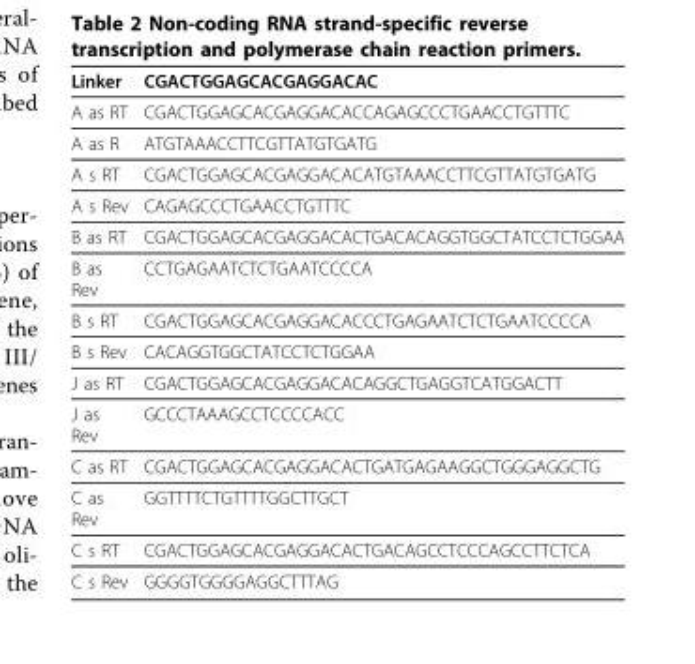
<table><thead><tr><td>Linker</td><td>CGACTGGAGCACGAGGACAC</td></tr></thead><tbody><tr><td>A as RT</td><td>CGACTGGAGCACGAGGACACCAGAGCCCTGAACCTGTTTC</td></tr><tr><td>A as R</td><td>ATGTAAACCTTCGTTATGTGATG</td></tr><tr><td>A s RT</td><td>CGACTGGAGCACGAGGACACATGTAAACCTTCGTTATGTGATG</td></tr><tr><td>A s Rev</td><td>CAGAGCCCTGAACCTGTTTC</td></tr><tr><td>B as RT</td><td>CGACTGGAGCACGAGGACACTGACACAGGTGGCTATCCTCTGGAA</td></tr><tr><td>B as Rev</td><td>CCTGAGAATCTCTGAATCCCCA</td></tr><tr><td>B s RT</td><td>CGACTGGAGCACGAGGACACCCTGAGAATCTCTGAATCCCCA</td></tr><tr><td>B s Rev</td><td>CACAGGTGGCTATCCTCTGGAA</td></tr><tr><td>J as RT</td><td>CGACTGGAGCACGAGGACACAGGCTGAGGTCATGGACTT</td></tr><tr><td>J as Rev</td><td>GCCCTAAAGCCTCCCCACC</td></tr><tr><td>C as RT</td><td>CGACTGGAGCACGAGGACACTGATGAGAAGGCTGGGAGGCTG</td></tr><tr><td>C as Rev</td><td>GGTTTTCTGTTTTGGCTTGCT</td></tr><tr><td>C s RT</td><td>CGACTGGAGCACGAGGACACTGACAGCCTCCCAGCCTTCTCA</td></tr><tr><td>C s Rev</td><td>GGGGTGGGGAGGCTTTAG</td></tr></tbody></table>